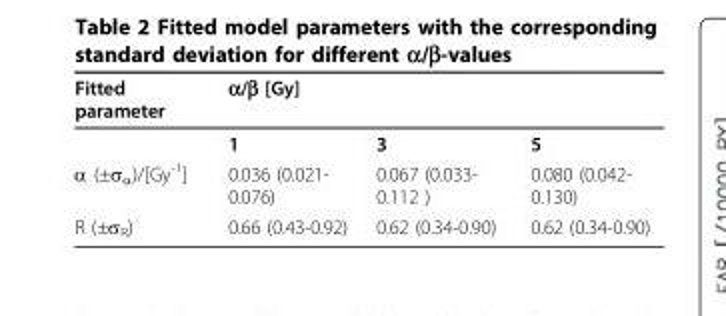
<table><thead><tr><td rowspan="2">Fitted parameter</td><td colspan="3">α/β [Gy]</td></tr><tr><td>1</td><td>3</td><td>5</td></tr></thead><tbody><tr><td>α (±σ<sub>α</sub>)/[Gy<sup>-1</sup>]</td><td>0.036 (0.021- 0.076)</td><td>0.067 (0.033- 0.112 )</td><td>0.080 (0.042- 0.130)</td></tr><tr><td>R (±σ<sub>R</sub>)</td><td>0.66 (0.43-0.92)</td><td>0.62 (0.34-0.90)</td><td>0.62 (0.34-0.90)</td></tr></tbody></table>